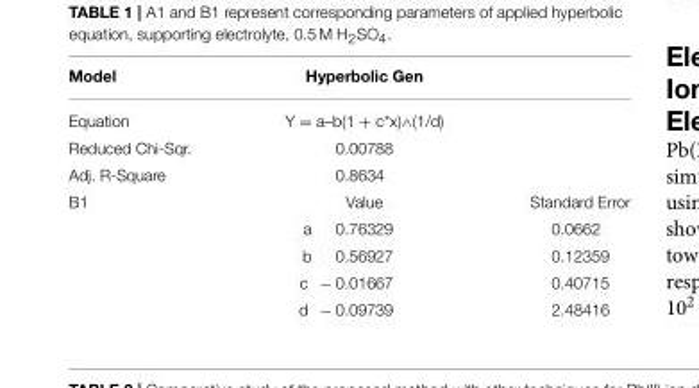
<table><thead><tr><td>Model</td><td>Hyperbolic Gen</td><td></td></tr></thead><tbody><tr><td>Equation</td><td>Y = a–b(1 + c*x)∧(1/d)</td><td></td></tr><tr><td>Reduced Chi-Sqr.</td><td>0.00788</td><td></td></tr><tr><td>Adj. R-Square</td><td>0.8634</td><td></td></tr><tr><td rowspan="5">B1</td><td>Value</td><td>Standard Error</td></tr><tr><td>a 0.76329</td><td>0.0662</td></tr><tr><td>b 0.56927</td><td>0.12359</td></tr><tr><td>c − 0.01667</td><td>0.40715</td></tr><tr><td>d − 0.09739</td><td>2.48416</td></tr></tbody></table>